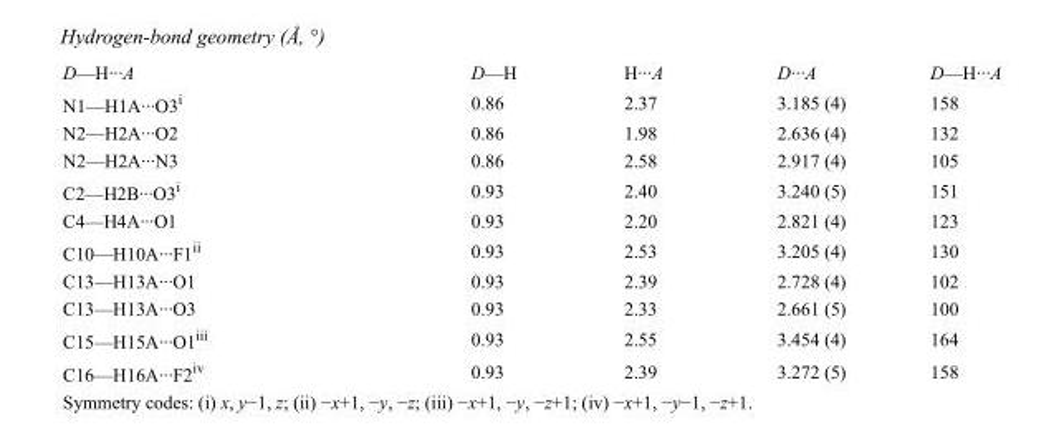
<table><tbody><tr><td>D—H···A</td><td>D—H</td><td>H···A</td><td>D···A</td><td>D—H···A</td></tr><tr><td>N1—H1A···O3<sup>i</sup></td><td>0.86</td><td>2.37</td><td>3.185 (4)</td><td>158</td></tr><tr><td>N2—H2A···O2</td><td>0.86</td><td>1.98</td><td>2.636 (4)</td><td>132</td></tr><tr><td>N2—H2A···N3</td><td>0.86</td><td>2.58</td><td>2.917 (4)</td><td>105</td></tr><tr><td>C2—H2B···O3<sup>i</sup></td><td>0.93</td><td>2.40</td><td>3.240 (5)</td><td>151</td></tr><tr><td>C4—H4A···O1</td><td>0.93</td><td>2.20</td><td>2.821 (4)</td><td>123</td></tr><tr><td>C10—H10A···F1<sup>ii</sup></td><td>0.93</td><td>2.53</td><td>3.205 (4)</td><td>130</td></tr><tr><td>C13—H13A···O1</td><td>0.93</td><td>2.39</td><td>2.728 (4)</td><td>102</td></tr><tr><td>C13—H13A···O3</td><td>0.93</td><td>2.33</td><td>2.661 (5)</td><td>100</td></tr><tr><td>C15—H15A···O1<sup>iii</sup></td><td>0.93</td><td>2.55</td><td>3.454 (4)</td><td>164</td></tr><tr><td>C16—H16A···F2<sup>iv</sup></td><td>0.93</td><td>2.39</td><td>3.272 (5)</td><td>158</td></tr></tbody></table>